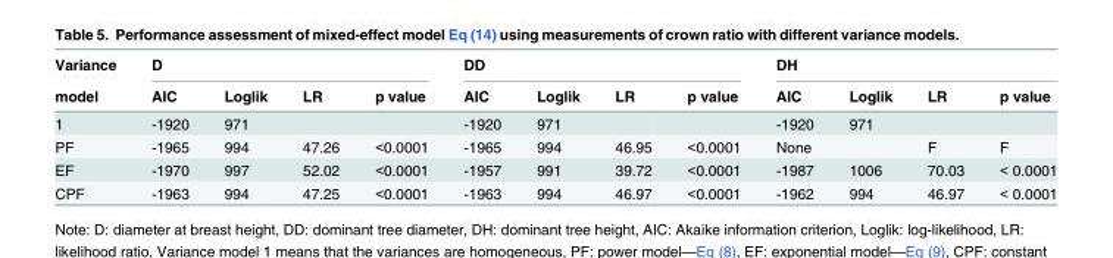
<table><thead><tr><td rowspan="2">Variance model</td><td colspan="4">D</td><td colspan="4">DD</td><td colspan="4">DH</td></tr><tr><td>AIC</td><td>Loglik</td><td>LR</td><td>p value</td><td>AIC</td><td>Loglik</td><td>LR</td><td>p value</td><td>AIC</td><td>Loglik</td><td>LR</td><td>p value</td></tr></thead><tbody><tr><td>1</td><td>-1920</td><td>971</td><td></td><td></td><td>-1920</td><td>971</td><td></td><td></td><td>-1920</td><td>971</td><td></td><td></td></tr><tr><td>PF</td><td>-1965</td><td>994</td><td>47.26</td><td>&lt;0.0001</td><td>-1965</td><td>994</td><td>46.95</td><td>&lt;0.0001</td><td>None</td><td></td><td>F</td><td>F</td></tr><tr><td>EF</td><td>-1970</td><td>997</td><td>52.02</td><td>&lt;0.0001</td><td>-1957</td><td>991</td><td>39.72</td><td>&lt;0.0001</td><td>-1987</td><td>1006</td><td>70.03</td><td>&lt; 0.0001</td></tr><tr><td>CPF</td><td>-1963</td><td>994</td><td>47.25</td><td>&lt;0.0001</td><td>-1963</td><td>994</td><td>46.97</td><td>&lt;0.0001</td><td>-1962</td><td>994</td><td>46.97</td><td>&lt; 0.0001</td></tr></tbody></table>